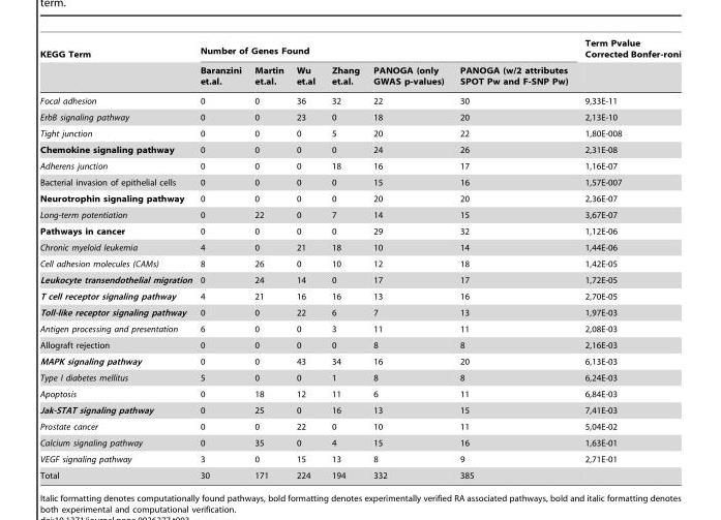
<table><thead><tr><td rowspan="2">KEGG Term</td><td colspan="6">Number of Genes Found</td><td rowspan="2">Term Pvalue Corrected Bonfer-roni</td></tr><tr><td>Baranzini et.al.</td><td>Martin et.al.</td><td>Wu et.al</td><td>Zhang et.al.</td><td>PANOGA (only GWAS p-values)</td><td>PANOGA (w/2 attributes SPOT Pw and F-SNP Pw)</td></tr></thead><tbody><tr><td>Focal adhesion</td><td>0</td><td>0</td><td>36</td><td>32</td><td>22</td><td>30</td><td>9,33E-11</td></tr><tr><td>ErbB signaling pathway</td><td>0</td><td>0</td><td>23</td><td>0</td><td>18</td><td>20</td><td>2,13E-10</td></tr><tr><td>Tight junction</td><td>0</td><td>0</td><td>0</td><td>5</td><td>20</td><td>22</td><td>1,80E-008</td></tr><tr><td>Chemokine signaling pathway</td><td>0</td><td>0</td><td>0</td><td>0</td><td>24</td><td>26</td><td>2,31E-08</td></tr><tr><td>Adherens junction</td><td>0</td><td>0</td><td>0</td><td>18</td><td>16</td><td>17</td><td>1,16E-07</td></tr><tr><td>Bacterial invasion of epithelial cells</td><td>0</td><td>0</td><td>0</td><td>0</td><td>15</td><td>16</td><td>1,57E-007</td></tr><tr><td>Neurotrophin signaling pathway</td><td>0</td><td>0</td><td>0</td><td>0</td><td>20</td><td>20</td><td>2,36E-07</td></tr><tr><td>Long-term potentiation</td><td>0</td><td>22</td><td>0</td><td>7</td><td>14</td><td>15</td><td>3,67E-07</td></tr><tr><td>Pathways in cancer</td><td>0</td><td>0</td><td>0</td><td>0</td><td>29</td><td>32</td><td>1,12E-06</td></tr><tr><td>Chronic myeloid leukemia</td><td>4</td><td>0</td><td>21</td><td>18</td><td>10</td><td>14</td><td>1,44E-06</td></tr><tr><td>Cell adhesion molecules (CAMs)</td><td>8</td><td>26</td><td>0</td><td>10</td><td>12</td><td>18</td><td>1,42E-05</td></tr><tr><td>Leukocyte transendothelial migration</td><td>0</td><td>24</td><td>14</td><td>0</td><td>17</td><td>17</td><td>1,72E-05</td></tr><tr><td>T cell receptor signaling pathway</td><td>4</td><td>21</td><td>16</td><td>16</td><td>13</td><td>16</td><td>2,70E-05</td></tr><tr><td>Toll-like receptor signaling pathway</td><td>0</td><td>0</td><td>22</td><td>6</td><td>7</td><td>13</td><td>1,97E-03</td></tr><tr><td>Antigen processing and presentation</td><td>6</td><td>0</td><td>0</td><td>3</td><td>11</td><td>11</td><td>2,08E-03</td></tr><tr><td>Allograft rejection</td><td>0</td><td>0</td><td>0</td><td>0</td><td>8</td><td>8</td><td>2,16E-03</td></tr><tr><td>MAPK signaling pathway</td><td>0</td><td>0</td><td>43</td><td>34</td><td>16</td><td>20</td><td>6,13E-03</td></tr><tr><td>Type I diabetes mellitus</td><td>5</td><td>0</td><td>0</td><td>1</td><td>8</td><td>8</td><td>6,24E-03</td></tr><tr><td>Apoptosis</td><td>0</td><td>18</td><td>12</td><td>11</td><td>6</td><td>11</td><td>6,84E-03</td></tr><tr><td>Jak-STAT signaling pathway</td><td>0</td><td>25</td><td>0</td><td>16</td><td>13</td><td>15</td><td>7,41E-03</td></tr><tr><td>Prostate cancer</td><td>0</td><td>0</td><td>22</td><td>0</td><td>10</td><td>11</td><td>5,04E-02</td></tr><tr><td>Calcium signaling pathway</td><td>0</td><td>35</td><td>0</td><td>4</td><td>15</td><td>16</td><td>1,63E-01</td></tr><tr><td>VEGF signaling pathway</td><td>3</td><td>0</td><td>15</td><td>13</td><td>8</td><td>9</td><td>2,71E-01</td></tr><tr><td>Total</td><td>30</td><td>171</td><td>224</td><td>194</td><td>332</td><td>385</td><td></td></tr></tbody></table>